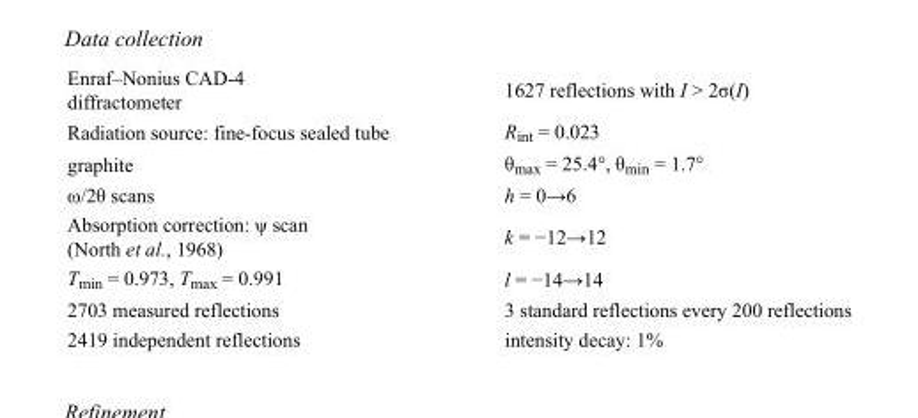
<table><tbody><tr><td>Enraf–Nonius CAD-4 diffractometer</td><td>1627 reflections with I &gt; 2σ(I)</td></tr><tr><td>Radiation source: fine-focus sealed tube</td><td>R<sub>int</sub> = 0.023</td></tr><tr><td>graphite</td><td>θ<sub>max</sub> = 25.4°, θ<sub>min</sub> = 1.7°</td></tr><tr><td>ω/2θ scans</td><td>h = 0→6</td></tr><tr><td>Absorption correction: ψ scan (North et al., 1968)</td><td>k = −12→12</td></tr><tr><td>T<sub>min</sub> = 0.973, T<sub>max</sub> = 0.991</td><td>l = −14→14</td></tr><tr><td>2703 measured reflections</td><td>3 standard reflections every 200 reflections</td></tr><tr><td>2419 independent reflections</td><td>intensity decay: 1%</td></tr></tbody></table>